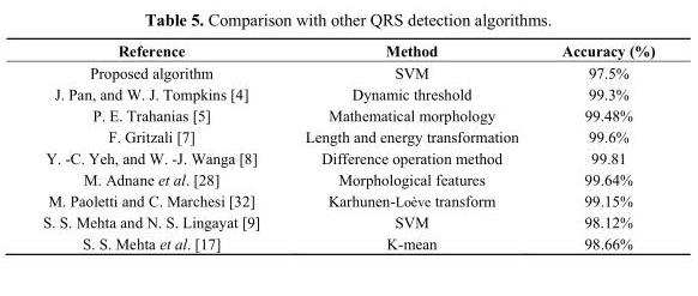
<table><thead><tr><td>Reference</td><td>Method</td><td>Accuracy (%)</td></tr></thead><tbody><tr><td>Proposed algorithm</td><td>SVM</td><td>97.5%</td></tr><tr><td>J. Pan, and W. J. Tompkins [4]</td><td>Dynamic threshold</td><td>99.3%</td></tr><tr><td>P. E. Trahanias [5]</td><td>Mathematical morphology</td><td>99.48%</td></tr><tr><td>F. Gritzali [7]</td><td>Length and energy transformation</td><td>99.6%</td></tr><tr><td>Y. -C. Yeh, and W. -J. Wanga [8]</td><td>Difference operation method</td><td>99.81</td></tr><tr><td>M. Adnane et al. [28]</td><td>Morphological features</td><td>99.64%</td></tr><tr><td>M. Paoletti and C. Marchesi [32]</td><td>Karhunen-Loève transform</td><td>99.15%</td></tr><tr><td>S. S. Mehta and N. S. Lingayat [9]</td><td>SVM</td><td>98.12%</td></tr><tr><td>S. S. Mehta et al. [17]</td><td>K-mean</td><td>98.66%</td></tr></tbody></table>